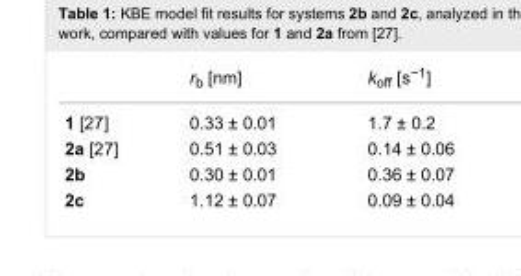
<table><thead><tr><td></td><td>r<sub>b</sub> [nm]</td><td>k<sub>off</sub> [s<sup>−1</sup>]</td></tr></thead><tbody><tr><td>1 [27]</td><td>0.33 ± 0.01</td><td>1.7 ± 0.2</td></tr><tr><td>2a [27]</td><td>0.51 ± 0.03</td><td>0.14 ± 0.06</td></tr><tr><td>2b</td><td>0.30 ± 0.01</td><td>0.36 ± 0.07</td></tr><tr><td>2c</td><td>1.12 ± 0.07</td><td>0.09 ± 0.04</td></tr></tbody></table>